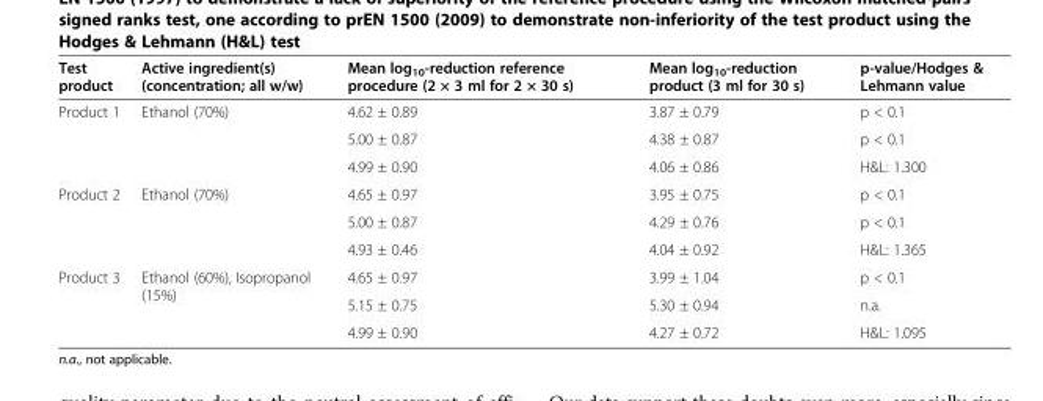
<table><thead><tr><td>Test product</td><td>Active ingredient(s) (concentration; all w/w)</td><td>Mean log<sub>10</sub>-reduction reference procedure (2 × 3 ml for 2 × 30 s)</td><td>Mean log<sub>10</sub>-reduction product (3 ml for 30 s)</td><td>p-value/Hodges &amp; Lehmann value</td></tr></thead><tbody><tr><td rowspan="3">Product 1</td><td rowspan="3">Ethanol (70%)</td><td>4.62 ± 0.89</td><td>3.87 ± 0.79</td><td>p &lt; 0.1</td></tr><tr><td>5.00 ± 0.87</td><td>4.38 ± 0.87</td><td>p &lt; 0.1</td></tr><tr><td>4.99 ± 0.90</td><td>4.06 ± 0.86</td><td>H&amp;L: 1.300</td></tr><tr><td rowspan="3">Product 2</td><td rowspan="3">Ethanol (70%)</td><td>4.65 ± 0.97</td><td>3.95 ± 0.75</td><td>p &lt; 0.1</td></tr><tr><td>5.00 ± 0.87</td><td>4.29 ± 0.76</td><td>p &lt; 0.1</td></tr><tr><td>4.93 ± 0.46</td><td>4.04 ± 0.92</td><td>H&amp;L: 1.365</td></tr><tr><td rowspan="3">Product 3</td><td rowspan="3">Ethanol (60%), Isopropanol (15%)</td><td>4.65 ± 0.97</td><td>3.99 ± 1.04</td><td>p &lt; 0.1</td></tr><tr><td>5.15 ± 0.75</td><td>5.30 ± 0.94</td><td>n.a.</td></tr><tr><td>4.99 ± 0.90</td><td>4.27 ± 0.72</td><td>H&amp;L: 1.095</td></tr></tbody></table>